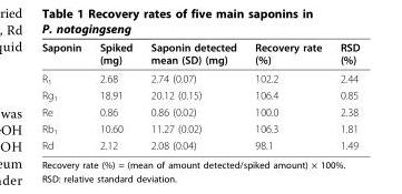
<table><thead><tr><td>Saponin</td><td>Spiked (mg)</td><td>Saponin detected mean (SD) (mg)</td><td>Recovery rate (%)</td><td>RSD (%)</td></tr></thead><tbody><tr><td>R<sub>1</sub></td><td>2.68</td><td>2.74 (0.07)</td><td>102.2</td><td>2.44</td></tr><tr><td>Rg<sub>1</sub></td><td>18.91</td><td>20.12 (0.15)</td><td>106.4</td><td>0.85</td></tr><tr><td>Re</td><td>0.86</td><td>0.86 (0.02)</td><td>100.0</td><td>2.38</td></tr><tr><td>Rb<sub>1</sub></td><td>10.60</td><td>11.27 (0.02)</td><td>106.3</td><td>1.81</td></tr><tr><td>Rd</td><td>2.12</td><td>2.08 (0.04)</td><td>98.1</td><td>1.49</td></tr></tbody></table>